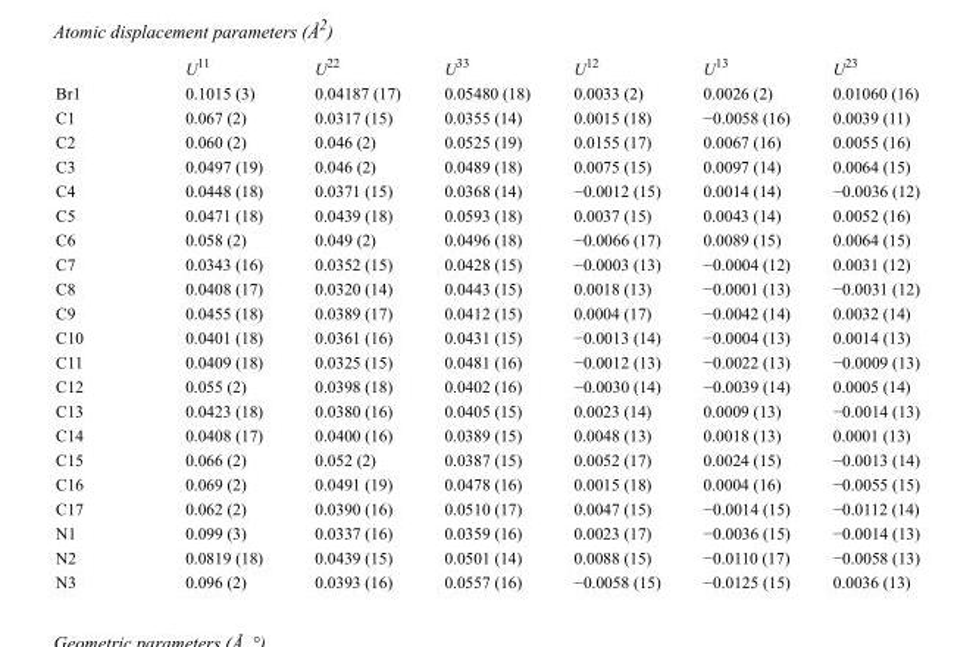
<table><thead><tr><td></td><td>U<sup>11</sup></td><td>U<sup>22</sup></td><td>U<sup>33</sup></td><td>U<sup>12</sup></td><td>U<sup>13</sup></td><td>U<sup>23</sup></td></tr></thead><tbody><tr><td>Br1</td><td>0.1015 (3)</td><td>0.04187 (17)</td><td>0.05480 (18)</td><td>0.0033 (2)</td><td>0.0026 (2)</td><td>0.01060 (16)</td></tr><tr><td>C1</td><td>0.067 (2)</td><td>0.0317 (15)</td><td>0.0355 (14)</td><td>0.0015 (18)</td><td>−0.0058 (16)</td><td>0.0039 (11)</td></tr><tr><td>C2</td><td>0.060 (2)</td><td>0.046 (2)</td><td>0.0525 (19)</td><td>0.0155 (17)</td><td>0.0067 (16)</td><td>0.0055 (16)</td></tr><tr><td>C3</td><td>0.0497 (19)</td><td>0.046 (2)</td><td>0.0489 (18)</td><td>0.0075 (15)</td><td>0.0097 (14)</td><td>0.0064 (15)</td></tr><tr><td>C4</td><td>0.0448 (18)</td><td>0.0371 (15)</td><td>0.0368 (14)</td><td>−0.0012 (15)</td><td>0.0014 (14)</td><td>−0.0036 (12)</td></tr><tr><td>C5</td><td>0.0471 (18)</td><td>0.0439 (18)</td><td>0.0593 (18)</td><td>0.0037 (15)</td><td>0.0043 (14)</td><td>0.0052 (16)</td></tr><tr><td>C6</td><td>0.058 (2)</td><td>0.049 (2)</td><td>0.0496 (18)</td><td>−0.0066 (17)</td><td>0.0089 (15)</td><td>0.0064 (15)</td></tr><tr><td>C7</td><td>0.0343 (16)</td><td>0.0352 (15)</td><td>0.0428 (15)</td><td>−0.0003 (13)</td><td>−0.0004 (12)</td><td>0.0031 (12)</td></tr><tr><td>C8</td><td>0.0408 (17)</td><td>0.0320 (14)</td><td>0.0443 (15)</td><td>0.0018 (13)</td><td>−0.0001 (13)</td><td>−0.0031 (12)</td></tr><tr><td>C9</td><td>0.0455 (18)</td><td>0.0389 (17)</td><td>0.0412 (15)</td><td>0.0004 (17)</td><td>−0.0042 (14)</td><td>0.0032 (14)</td></tr><tr><td>C10</td><td>0.0401 (18)</td><td>0.0361 (16)</td><td>0.0431 (15)</td><td>−0.0013 (14)</td><td>−0.0004 (13)</td><td>0.0014 (13)</td></tr><tr><td>C11</td><td>0.0409 (18)</td><td>0.0325 (15)</td><td>0.0481 (16)</td><td>−0.0012 (13)</td><td>−0.0022 (13)</td><td>−0.0009 (13)</td></tr><tr><td>C12</td><td>0.055 (2)</td><td>0.0398 (18)</td><td>0.0402 (16)</td><td>−0.0030 (14)</td><td>−0.0039 (14)</td><td>0.0005 (14)</td></tr><tr><td>C13</td><td>0.0423 (18)</td><td>0.0380 (16)</td><td>0.0405 (15)</td><td>0.0023 (14)</td><td>0.0009 (13)</td><td>−0.0014 (13)</td></tr><tr><td>C14</td><td>0.0408 (17)</td><td>0.0400 (16)</td><td>0.0389 (15)</td><td>0.0048 (13)</td><td>0.0018 (13)</td><td>0.0001 (13)</td></tr><tr><td>C15</td><td>0.066 (2)</td><td>0.052 (2)</td><td>0.0387 (15)</td><td>0.0052 (17)</td><td>0.0024 (15)</td><td>−0.0013 (14)</td></tr><tr><td>C16</td><td>0.069 (2)</td><td>0.0491 (19)</td><td>0.0478 (16)</td><td>0.0015 (18)</td><td>0.0004 (16)</td><td>−0.0055 (15)</td></tr><tr><td>C17</td><td>0.062 (2)</td><td>0.0390 (16)</td><td>0.0510 (17)</td><td>0.0047 (15)</td><td>−0.0014 (15)</td><td>−0.0112 (14)</td></tr><tr><td>N1</td><td>0.099 (3)</td><td>0.0337 (16)</td><td>0.0359 (16)</td><td>0.0023 (17)</td><td>−0.0036 (15)</td><td>−0.0014 (13)</td></tr><tr><td>N2</td><td>0.0819 (18)</td><td>0.0439 (15)</td><td>0.0501 (14)</td><td>0.0088 (15)</td><td>−0.0110 (17)</td><td>−0.0058 (13)</td></tr><tr><td>N3</td><td>0.096 (2)</td><td>0.0393 (16)</td><td>0.0557 (16)</td><td>−0.0058 (15)</td><td>−0.0125 (15)</td><td>0.0036 (13)</td></tr></tbody></table>